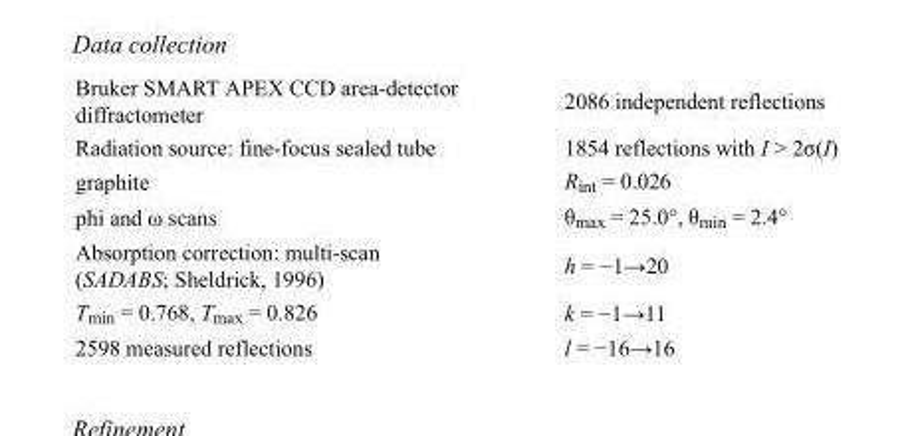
<table><tbody><tr><td>Bruker SMART APEX CCD area-detector diffractometer</td><td>2086 independent reflections</td></tr><tr><td>Radiation source: fine-focus sealed tube</td><td>1854 reflections with I &gt; 2σ(I)</td></tr><tr><td>graphite</td><td>R<sub>int</sub> = 0.026</td></tr><tr><td>phi and ω scans</td><td>θ<sub>max</sub> = 25.0°, θ<sub>min</sub> = 2.4°</td></tr><tr><td>Absorption correction: multi-scan (SADABS; Sheldrick, 1996)</td><td>h = −1→20</td></tr><tr><td>T<sub>min</sub> = 0.768, T<sub>max</sub> = 0.826</td><td>k = −1→11</td></tr><tr><td>2598 measured reflections</td><td>l = −16→16</td></tr></tbody></table>